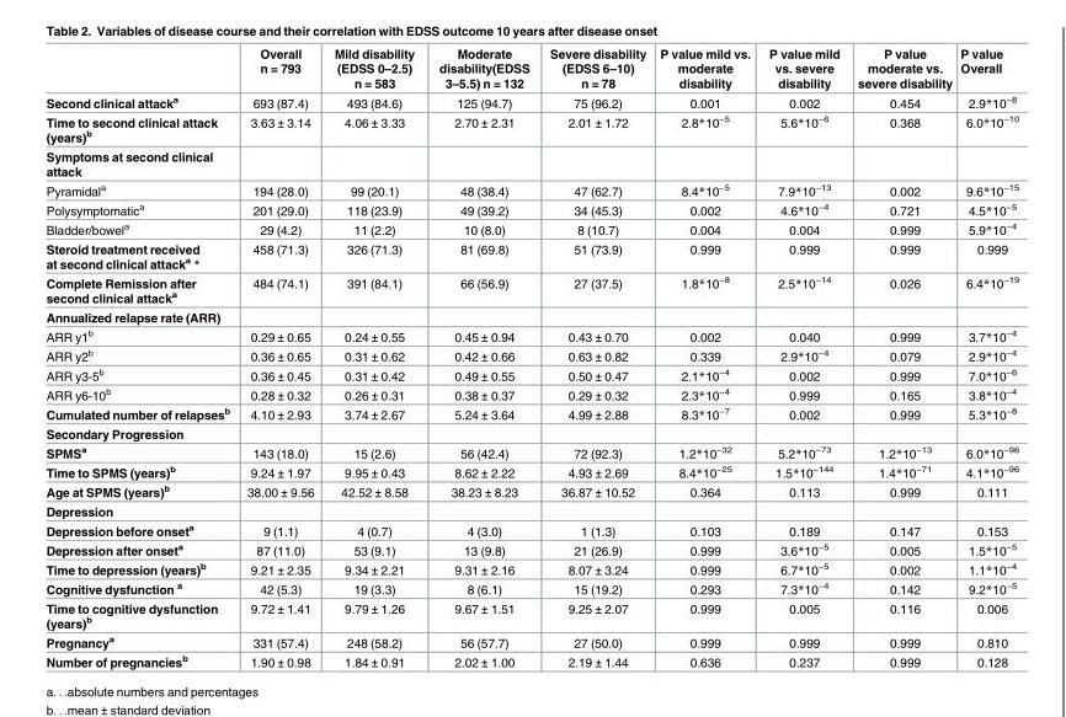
<table><thead><tr><td></td><td>Overall n = 793</td><td>Mild disability (EDSS 0–2.5) n = 583</td><td>Moderate disability(EDSS 3–5.5) n = 132</td><td>Severe disability (EDSS 6–10) n = 78</td><td>P value mild vs. moderate disability</td><td>P value mild vs. severe disability</td><td>P value moderate vs. severe disability</td><td>P value Overall</td></tr></thead><tbody><tr><td>Second clinical attack<sup>a</sup></td><td>693 (87.4)</td><td>493 (84.6)</td><td>125 (94.7)</td><td>75 (96.2)</td><td>0.001</td><td>0.002</td><td>0.454</td><td>2.9*10<sup>−8</sup></td></tr><tr><td>Time to second clinical attack (years)<sup>b</sup></td><td>3.63 ± 3.14</td><td>4.06 ± 3.33</td><td>2.70 ± 2.31</td><td>2.01 ± 1.72</td><td>2.8*10<sup>−5</sup></td><td>5.6*10<sup>−6</sup></td><td>0.368</td><td>6.0*10<sup>−10</sup></td></tr><tr><td colspan="9">Symptoms at second clinical attack</td></tr><tr><td>Pyramidal<sup>a</sup></td><td>194 (28.0)</td><td>99 (20.1)</td><td>48 (38.4)</td><td>47 (62.7)</td><td>8.4*10<sup>−5</sup></td><td>7.9*10<sup>−13</sup></td><td>0.002</td><td>9.6*10<sup>−15</sup></td></tr><tr><td>Polysymptomatic<sup>a</sup></td><td>201 (29.0)</td><td>118 (23.9)</td><td>49 (39.2)</td><td>34 (45.3)</td><td>0.002</td><td>4.6*10<sup>−4</sup></td><td>0.721</td><td>4.5*10<sup>−5</sup></td></tr><tr><td>Bladder/bowel<sup>a</sup></td><td>29 (4.2)</td><td>11 (2.2)</td><td>10 (8.0)</td><td>8 (10.7)</td><td>0.004</td><td>0.004</td><td>0.999</td><td>5.9*10<sup>−4</sup></td></tr><tr><td>Steroid treatment received at second clinical attack<sup>a</sup> *</td><td>458 (71.3)</td><td>326 (71.3)</td><td>81 (69.8)</td><td>51 (73.9)</td><td>0.999</td><td>0.999</td><td>0.999</td><td>0.999</td></tr><tr><td>Complete Remission after second clinical attack<sup>a</sup></td><td>484 (74.1)</td><td>391 (84.1)</td><td>66 (56.9)</td><td>27 (37.5)</td><td>1.8*10<sup>−8</sup></td><td>2.5*10<sup>−14</sup></td><td>0.026</td><td>6.4*10<sup>−19</sup></td></tr><tr><td colspan="9">Annualized relapse rate (ARR)</td></tr><tr><td>ARR y1<sup>b</sup></td><td>0.29 ± 0.65</td><td>0.24 ± 0.55</td><td>0.45 ± 0.94</td><td>0.43 ± 0.70</td><td>0.002</td><td>0.040</td><td>0.999</td><td>3.7*10<sup>−4</sup></td></tr><tr><td>ARR y2<sup>b</sup></td><td>0.36 ± 0.65</td><td>0.31 ± 0.62</td><td>0.42 ± 0.66</td><td>0.63 ± 0.82</td><td>0.339</td><td>2.9*10<sup>−4</sup></td><td>0.079</td><td>2.9*10<sup>−4</sup></td></tr><tr><td>ARR y3-5<sup>b</sup></td><td>0.36 ± 0.45</td><td>0.31 ± 0.42</td><td>0.49 ± 0.55</td><td>0.50 ± 0.47</td><td>2.1*10<sup>−4</sup></td><td>0.002</td><td>0.999</td><td>7.0*10<sup>−6</sup></td></tr><tr><td>ARR y6-10<sup>b</sup></td><td>0.28 ± 0.32</td><td>0.26 ± 0.31</td><td>0.38 ± 0.37</td><td>0.29 ± 0.32</td><td>2.3*10<sup>−4</sup></td><td>0.999</td><td>0.165</td><td>3.8*10<sup>−4</sup></td></tr><tr><td>Cumulated number of relapses<sup>b</sup></td><td>4.10 ± 2.93</td><td>3.74 ± 2.67</td><td>5.24 ± 3.64</td><td>4.99 ± 2.88</td><td>8.3*10<sup>−7</sup></td><td>0.002</td><td>0.999</td><td>5.3*10<sup>−8</sup></td></tr><tr><td colspan="9">Secondary Progression</td></tr><tr><td>SPMS<sup>a</sup></td><td>143 (18.0)</td><td>15 (2.6)</td><td>56 (42.4)</td><td>72 (92.3)</td><td>1.2*10<sup>−32</sup></td><td>5.2*10<sup>−73</sup></td><td>1.2*10<sup>−13</sup></td><td>6.0*10<sup>−96</sup></td></tr><tr><td>Time to SPMS (years)<sup>b</sup></td><td>9.24 ± 1.97</td><td>9.95 ± 0.43</td><td>8.62 ± 2.22</td><td>4.93 ± 2.69</td><td>8.4*10<sup>−25</sup></td><td>1.5*10<sup>−144</sup></td><td>1.4*10<sup>−71</sup></td><td>4.1*10<sup>−96</sup></td></tr><tr><td>Age at SPMS (years)<sup>b</sup></td><td>38.00 ± 9.56</td><td>42.52 ± 8.58</td><td>38.23 ± 8.23</td><td>36.87 ± 10.52</td><td>0.364</td><td>0.113</td><td>0.999</td><td>0.111</td></tr><tr><td colspan="9">Depression</td></tr><tr><td>Depression before onset<sup>a</sup></td><td>9 (1.1)</td><td>4 (0.7)</td><td>4 (3.0)</td><td>1 (1.3)</td><td>0.103</td><td>0.189</td><td>0.147</td><td>0.153</td></tr><tr><td>Depression after onset<sup>a</sup></td><td>87 (11.0)</td><td>53 (9.1)</td><td>13 (9.8)</td><td>21 (26.9)</td><td>0.999</td><td>3.6*10<sup>−5</sup></td><td>0.005</td><td>1.5*10<sup>−5</sup></td></tr><tr><td>Time to depression (years)<sup>b</sup></td><td>9.21 ± 2.35</td><td>9.34 ± 2.21</td><td>9.31 ± 2.16</td><td>8.07 ± 3.24</td><td>0.999</td><td>6.7*10<sup>−5</sup></td><td>0.002</td><td>1.1*10<sup>−4</sup></td></tr><tr><td>Cognitive dysfunction <sup>a</sup></td><td>42 (5.3)</td><td>19 (3.3)</td><td>8 (6.1)</td><td>15 (19.2)</td><td>0.293</td><td>7.3*10<sup>−4</sup></td><td>0.142</td><td>9.2*10<sup>−5</sup></td></tr><tr><td>Time to cognitive dysfunction (years)<sup>b</sup></td><td>9.72 ± 1.41</td><td>9.79 ± 1.26</td><td>9.67 ± 1.51</td><td>9.25 ± 2.07</td><td>0.999</td><td>0.005</td><td>0.116</td><td>0.006</td></tr><tr><td>Pregnancy<sup>a</sup></td><td>331 (57.4)</td><td>248 (58.2)</td><td>56 (57.7)</td><td>27 (50.0)</td><td>0.999</td><td>0.999</td><td>0.999</td><td>0.810</td></tr><tr><td>Number of pregnancies<sup>b</sup></td><td>1.90 ± 0.98</td><td>1.84 ± 0.91</td><td>2.02 ± 1.00</td><td>2.19 ± 1.44</td><td>0.636</td><td>0.237</td><td>0.999</td><td>0.128</td></tr></tbody></table>